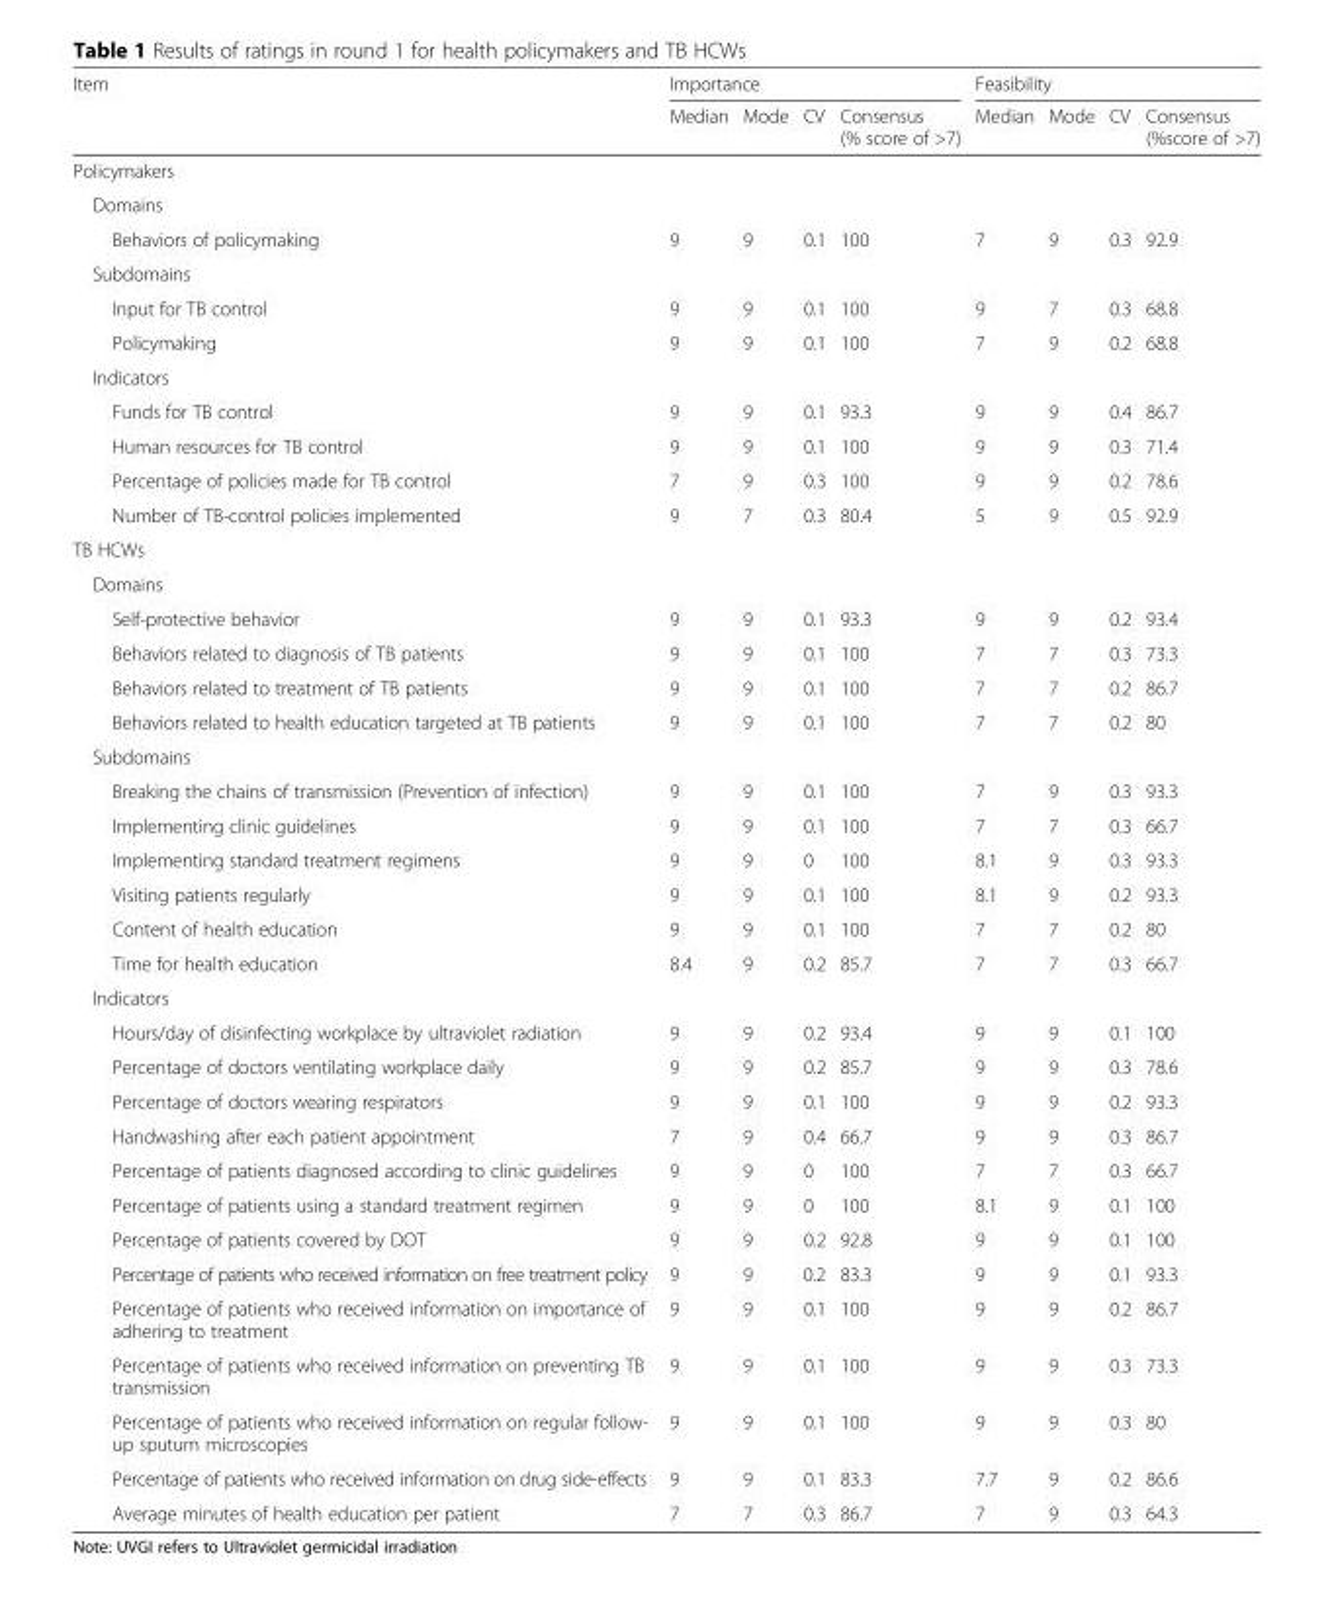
<table><thead><tr><td rowspan="2">Item</td><td colspan="4">Importance</td><td colspan="4">Feasibility</td></tr><tr><td>Median</td><td>Mode</td><td>CV</td><td>Consensus (% score of &gt;7)</td><td>Median</td><td>Mode</td><td>CV</td><td>Consensus (%score of &gt;7)</td></tr></thead><tbody><tr><td colspan="9">Policymakers</td></tr><tr><td colspan="9">Domains</td></tr><tr><td>Behaviors of policymaking</td><td>9</td><td>9</td><td>0.1</td><td>100</td><td>7</td><td>9</td><td>0.3</td><td>92.9</td></tr><tr><td colspan="9">Subdomains</td></tr><tr><td>Input for TB control</td><td>9</td><td>9</td><td>0.1</td><td>100</td><td>9</td><td>7</td><td>0.3</td><td>68.8</td></tr><tr><td>Policymaking</td><td>9</td><td>9</td><td>0.1</td><td>100</td><td>7</td><td>9</td><td>0.2</td><td>68.8</td></tr><tr><td colspan="9">Indicators</td></tr><tr><td>Funds for TB control</td><td>9</td><td>9</td><td>0.1</td><td>93.3</td><td>9</td><td>9</td><td>0.4</td><td>86.7</td></tr><tr><td>Human resources for TB control</td><td>9</td><td>9</td><td>0.1</td><td>100</td><td>9</td><td>9</td><td>0.3</td><td>71.4</td></tr><tr><td>Percentage of policies made for TB control</td><td>7</td><td>9</td><td>0.3</td><td>100</td><td>9</td><td>9</td><td>0.2</td><td>78.6</td></tr><tr><td>Number of TB-control policies implemented</td><td>9</td><td>7</td><td>0.3</td><td>80.4</td><td>5</td><td>9</td><td>0.5</td><td>92.9</td></tr><tr><td colspan="9">TB HCWs</td></tr><tr><td colspan="9">Domains</td></tr><tr><td>Self-protective behavior</td><td>9</td><td>9</td><td>0.1</td><td>93.3</td><td>9</td><td>9</td><td>0.2</td><td>93.4</td></tr><tr><td>Behaviors related to diagnosis of TB patients</td><td>9</td><td>9</td><td>0.1</td><td>100</td><td>7</td><td>7</td><td>0.3</td><td>73.3</td></tr><tr><td>Behaviors related to treatment of TB patients</td><td>9</td><td>9</td><td>0.1</td><td>100</td><td>7</td><td>7</td><td>0.2</td><td>86.7</td></tr><tr><td>Behaviors related to health education targeted at TB patients</td><td>9</td><td>9</td><td>0.1</td><td>100</td><td>7</td><td>7</td><td>0.2</td><td>80</td></tr><tr><td colspan="9">Subdomains</td></tr><tr><td>Breaking the chains of transmission (Prevention of infection)</td><td>9</td><td>9</td><td>0.1</td><td>100</td><td>7</td><td>9</td><td>0.3</td><td>93.3</td></tr><tr><td>Implementing clinic guidelines</td><td>9</td><td>9</td><td>0.1</td><td>100</td><td>7</td><td>7</td><td>0.3</td><td>66.7</td></tr><tr><td>Implementing standard treatment regimens</td><td>9</td><td>9</td><td>0</td><td>100</td><td>8.1</td><td>9</td><td>0.3</td><td>93.3</td></tr><tr><td>Visiting patients regularly</td><td>9</td><td>9</td><td>0.1</td><td>100</td><td>8.1</td><td>9</td><td>0.2</td><td>93.3</td></tr><tr><td>Content of health education</td><td>9</td><td>9</td><td>0.1</td><td>100</td><td>7</td><td>7</td><td>0.2</td><td>80</td></tr><tr><td>Time for health education</td><td>8.4</td><td>9</td><td>0.2</td><td>85.7</td><td>7</td><td>7</td><td>0.3</td><td>66.7</td></tr><tr><td colspan="9">Indicators</td></tr><tr><td>Hours/day of disinfecting workplace by ultraviolet radiation</td><td>9</td><td>9</td><td>0.2</td><td>93.4</td><td>9</td><td>9</td><td>0.1</td><td>100</td></tr><tr><td>Percentage of doctors ventilating workplace daily</td><td>9</td><td>9</td><td>0.2</td><td>85.7</td><td>9</td><td>9</td><td>0.3</td><td>78.6</td></tr><tr><td>Percentage of doctors wearing respirators</td><td>9</td><td>9</td><td>0.1</td><td>100</td><td>9</td><td>9</td><td>0.2</td><td>93.3</td></tr><tr><td>Handwashing after each patient appointment</td><td>7</td><td>9</td><td>0.4</td><td>66.7</td><td>9</td><td>9</td><td>0.3</td><td>86.7</td></tr><tr><td>Percentage of patients diagnosed according to clinic guidelines</td><td>9</td><td>9</td><td>0</td><td>100</td><td>7</td><td>7</td><td>0.3</td><td>66.7</td></tr><tr><td>Percentage of patients using a standard treatment regimen</td><td>9</td><td>9</td><td>0</td><td>100</td><td>8.1</td><td>9</td><td>0.1</td><td>100</td></tr><tr><td>Percentage of patients covered by DOT</td><td>9</td><td>9</td><td>0.2</td><td>92.8</td><td>9</td><td>9</td><td>0.1</td><td>100</td></tr><tr><td>Percentage of patients who received information on free treatment policy</td><td>9</td><td>9</td><td>0.2</td><td>83.3</td><td>9</td><td>9</td><td>0.1</td><td>93.3</td></tr><tr><td>Percentage of patients who received information on importance of adhering to treatment</td><td>9</td><td>9</td><td>0.1</td><td>100</td><td>9</td><td>9</td><td>0.2</td><td>86.7</td></tr><tr><td>Percentage of patients who received information on preventing TB transmission</td><td>9</td><td>9</td><td>0.1</td><td>100</td><td>9</td><td>9</td><td>0.3</td><td>73.3</td></tr><tr><td>Percentage of patients who received information on regular follow- up sputum microscopies</td><td>9</td><td>9</td><td>0.1</td><td>100</td><td>9</td><td>9</td><td>0.3</td><td>80</td></tr><tr><td>Percentage of patients who received information on drug side-effects</td><td>9</td><td>9</td><td>0.1</td><td>83.3</td><td>7.7</td><td>9</td><td>0.2</td><td>86.6</td></tr><tr><td>Average minutes of health education per patient</td><td>7</td><td>7</td><td>0.3</td><td>86.7</td><td>7</td><td>9</td><td>0.3</td><td>64.3</td></tr></tbody></table>